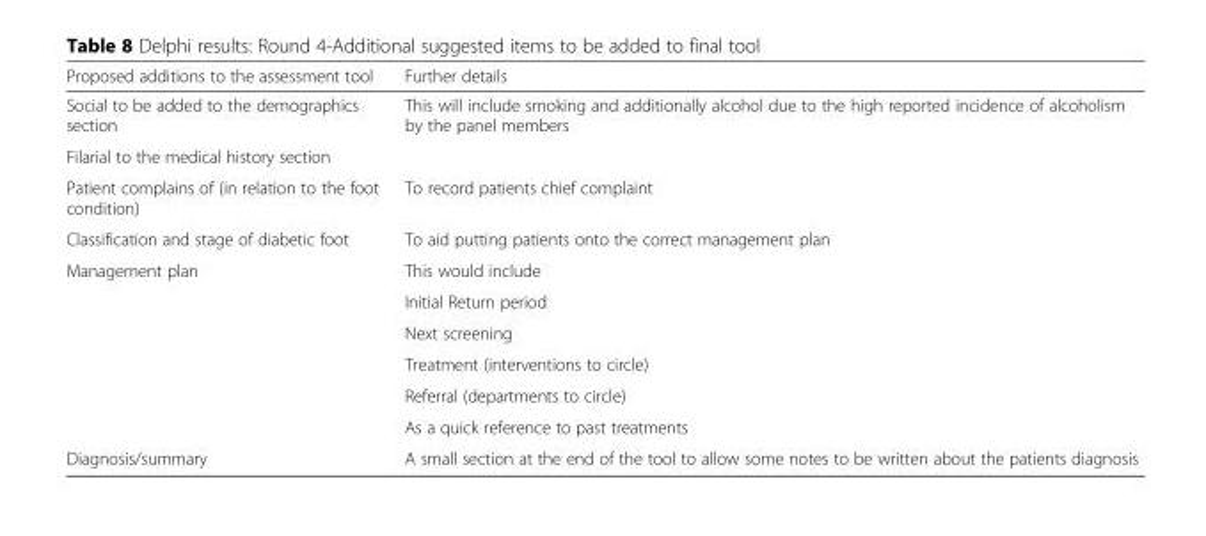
<table><thead><tr><td>Proposed additions to the assessment tool</td><td>Further details</td></tr></thead><tbody><tr><td>Social to be added to the demographics section</td><td>This will include smoking and additionally alcohol due to the high reported incidence of alcoholism by the panel members</td></tr><tr><td colspan="2">Filarial to the medical history section</td></tr><tr><td>Patient complains of (in relation to the foot condition)</td><td>To record patients chief complaint</td></tr><tr><td>Classification and stage of diabetic foot</td><td>To aid putting patients onto the correct management plan</td></tr><tr><td rowspan="6">Management plan</td><td>This would include</td></tr><tr><td>Initial Return period</td></tr><tr><td>Next screening</td></tr><tr><td>Treatment (interventions to circle)</td></tr><tr><td>Referral (departments to circle)</td></tr><tr><td>As a quick reference to past treatments</td></tr><tr><td>Diagnosis/summary</td><td>A small section at the end of the tool to allow some notes to be written about the patients diagnosis</td></tr></tbody></table>